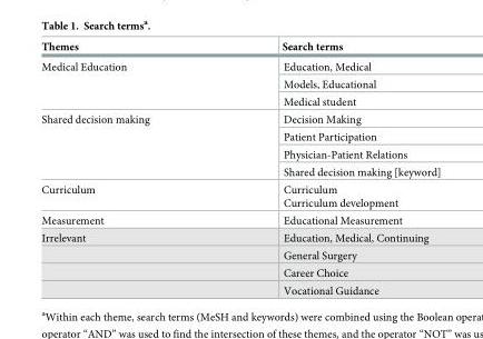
<table><thead><tr><td>Themes</td><td>Search terms</td></tr></thead><tbody><tr><td rowspan="3">Medical Education</td><td>Education, Medical</td></tr><tr><td>Models, Educational</td></tr><tr><td>Medical student</td></tr><tr><td rowspan="4">Shared decision making</td><td>Decision Making</td></tr><tr><td>Patient Participation</td></tr><tr><td>Physician-Patient Relations</td></tr><tr><td>Shared decision making [keyword]</td></tr><tr><td>Curriculum</td><td>Curriculum Curriculum development</td></tr><tr><td>Measurement</td><td>Educational Measurement</td></tr><tr><td rowspan="4">Irrelevant</td><td>Education, Medical, Continuing</td></tr><tr><td>General Surgery</td></tr><tr><td>Career Choice</td></tr><tr><td>Vocational Guidance</td></tr></tbody></table>